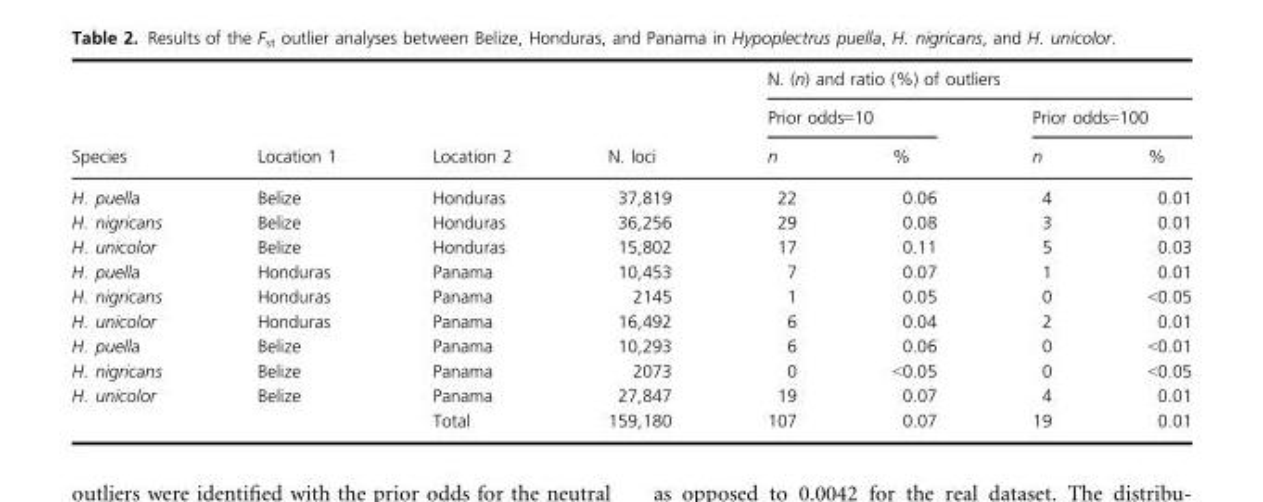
<table><thead><tr><td rowspan="3">Species</td><td rowspan="3">Location 1</td><td rowspan="3">Location 2</td><td rowspan="3">N. loci</td><td colspan="4">N. (n) and ratio (%) of outliers</td></tr><tr><td colspan="2">Prior odds=10</td><td colspan="2">Prior odds=100</td></tr><tr><td>n</td><td>%</td><td>n</td><td>%</td></tr></thead><tbody><tr><td>H. puella</td><td>Belize</td><td>Honduras</td><td>37,819</td><td>22</td><td>0.06</td><td>4</td><td>0.01</td></tr><tr><td>H. nigricans</td><td>Belize</td><td>Honduras</td><td>36,256</td><td>29</td><td>0.08</td><td>3</td><td>0.01</td></tr><tr><td>H. unicolor</td><td>Belize</td><td>Honduras</td><td>15,802</td><td>17</td><td>0.11</td><td>5</td><td>0.03</td></tr><tr><td>H. puella</td><td>Honduras</td><td>Panama</td><td>10,453</td><td>7</td><td>0.07</td><td>1</td><td>0.01</td></tr><tr><td>H. nigricans</td><td>Honduras</td><td>Panama</td><td>2145</td><td>1</td><td>0.05</td><td>0</td><td>&lt;0.05</td></tr><tr><td>H. unicolor</td><td>Honduras</td><td>Panama</td><td>16,492</td><td>6</td><td>0.04</td><td>2</td><td>0.01</td></tr><tr><td>H. puella</td><td>Belize</td><td>Panama</td><td>10,293</td><td>6</td><td>0.06</td><td>0</td><td>&lt;0.01</td></tr><tr><td>H. nigricans</td><td>Belize</td><td>Panama</td><td>2073</td><td>0</td><td>&lt;0.05</td><td>0</td><td>&lt;0.05</td></tr><tr><td>H. unicolor</td><td>Belize</td><td>Panama</td><td>27,847</td><td>19</td><td>0.07</td><td>4</td><td>0.01</td></tr><tr><td colspan="2"></td><td>Total</td><td>159,180</td><td>107</td><td>0.07</td><td>19</td><td>0.01</td></tr></tbody></table>